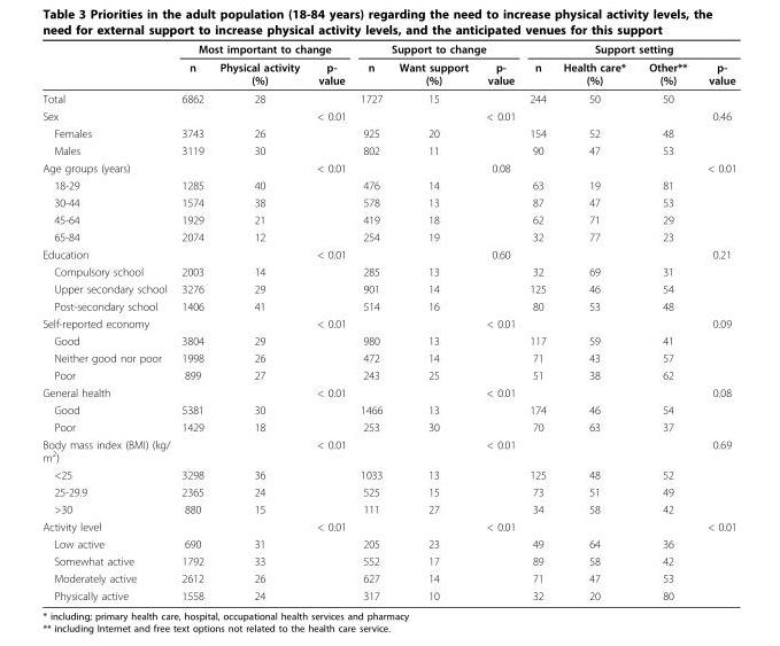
<table><thead><tr><td rowspan="2"></td><td colspan="3">Most important to change</td><td colspan="3">Support to change</td><td colspan="4">Support setting</td></tr><tr><td>n</td><td>Physical activity (%)</td><td>p- value</td><td>n</td><td>Want support (%)</td><td>p- value</td><td>n</td><td>Health care* (%)</td><td>Other** (%)</td><td>p- value</td></tr></thead><tbody><tr><td>Total</td><td>6862</td><td>28</td><td></td><td>1727</td><td>15</td><td></td><td>244</td><td>50</td><td>50</td><td></td></tr><tr><td>Sex</td><td></td><td></td><td>&lt; 0.01</td><td></td><td></td><td>&lt; 0.01</td><td></td><td></td><td></td><td>0.46</td></tr><tr><td>Females</td><td>3743</td><td>26</td><td></td><td>925</td><td>20</td><td></td><td>154</td><td>52</td><td>48</td><td></td></tr><tr><td>Males</td><td>3119</td><td>30</td><td></td><td>802</td><td>11</td><td></td><td>90</td><td>47</td><td>53</td><td></td></tr><tr><td>Age groups (years)</td><td></td><td></td><td>&lt; 0.01</td><td></td><td></td><td>0.08</td><td></td><td></td><td></td><td>&lt; 0.01</td></tr><tr><td>18-29</td><td>1285</td><td>40</td><td></td><td>476</td><td>14</td><td></td><td>63</td><td>19</td><td>81</td><td></td></tr><tr><td>30-44</td><td>1574</td><td>38</td><td></td><td>578</td><td>13</td><td></td><td>87</td><td>47</td><td>53</td><td></td></tr><tr><td>45-64</td><td>1929</td><td>21</td><td></td><td>419</td><td>18</td><td></td><td>62</td><td>71</td><td>29</td><td></td></tr><tr><td>65-84</td><td>2074</td><td>12</td><td></td><td>254</td><td>19</td><td></td><td>32</td><td>77</td><td>23</td><td></td></tr><tr><td>Education</td><td></td><td></td><td>&lt; 0.01</td><td></td><td></td><td>0.60</td><td></td><td></td><td></td><td>0.21</td></tr><tr><td>Compulsory school</td><td>2003</td><td>14</td><td></td><td>285</td><td>13</td><td></td><td>32</td><td>69</td><td>31</td><td></td></tr><tr><td>Upper secondary school</td><td>3276</td><td>29</td><td></td><td>901</td><td>14</td><td></td><td>125</td><td>46</td><td>54</td><td></td></tr><tr><td>Post-secondary school</td><td>1406</td><td>41</td><td></td><td>514</td><td>16</td><td></td><td>80</td><td>53</td><td>48</td><td></td></tr><tr><td>Self-reported economy</td><td></td><td></td><td>&lt; 0.01</td><td></td><td></td><td>&lt; 0.01</td><td></td><td></td><td></td><td>0.09</td></tr><tr><td>Good</td><td>3804</td><td>29</td><td></td><td>980</td><td>13</td><td></td><td>117</td><td>59</td><td>41</td><td></td></tr><tr><td>Neither good nor poor</td><td>1998</td><td>26</td><td></td><td>472</td><td>14</td><td></td><td>71</td><td>43</td><td>57</td><td></td></tr><tr><td>Poor</td><td>899</td><td>27</td><td></td><td>243</td><td>25</td><td></td><td>51</td><td>38</td><td>62</td><td></td></tr><tr><td>General health</td><td></td><td></td><td>&lt; 0.01</td><td></td><td></td><td>&lt; 0.01</td><td></td><td></td><td></td><td>0.08</td></tr><tr><td>Good</td><td>5381</td><td>30</td><td></td><td>1466</td><td>13</td><td></td><td>174</td><td>46</td><td>54</td><td></td></tr><tr><td>Poor</td><td>1429</td><td>18</td><td></td><td>253</td><td>30</td><td></td><td>70</td><td>63</td><td>37</td><td></td></tr><tr><td>Body mass index (BMI) (kg/ m<sup>2</sup>)</td><td></td><td></td><td>&lt; 0.01</td><td></td><td></td><td>&lt; 0.01</td><td></td><td></td><td></td><td>0.69</td></tr><tr><td>&lt;25</td><td>3298</td><td>36</td><td></td><td>1033</td><td>13</td><td></td><td>125</td><td>48</td><td>52</td><td></td></tr><tr><td>25-29.9</td><td>2365</td><td>24</td><td></td><td>525</td><td>15</td><td></td><td>73</td><td>51</td><td>49</td><td></td></tr><tr><td>&gt;30</td><td>880</td><td>15</td><td></td><td>111</td><td>27</td><td></td><td>34</td><td>58</td><td>42</td><td></td></tr><tr><td>Activity level</td><td></td><td></td><td>&lt; 0.01</td><td></td><td></td><td>&lt; 0.01</td><td></td><td></td><td></td><td>&lt; 0.01</td></tr><tr><td>Low active</td><td>690</td><td>31</td><td></td><td>205</td><td>23</td><td></td><td>49</td><td>64</td><td>36</td><td></td></tr><tr><td>Somewhat active</td><td>1792</td><td>33</td><td></td><td>552</td><td>17</td><td></td><td>89</td><td>58</td><td>42</td><td></td></tr><tr><td>Moderately active</td><td>2612</td><td>26</td><td></td><td>627</td><td>14</td><td></td><td>71</td><td>47</td><td>53</td><td></td></tr><tr><td>Physically active</td><td>1558</td><td>24</td><td></td><td>317</td><td>10</td><td></td><td>32</td><td>20</td><td>80</td><td></td></tr></tbody></table>